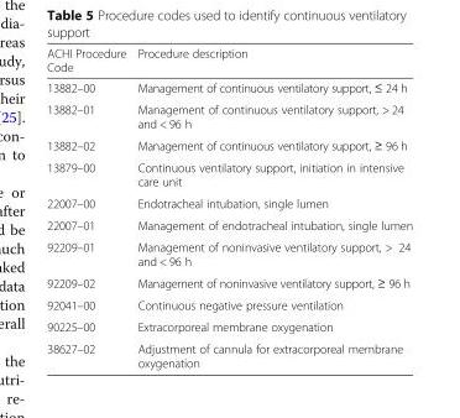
<table><thead><tr><td>ACHI Procedure Code</td><td>Procedure description</td></tr></thead><tbody><tr><td>13882–00</td><td>Management of continuous ventilatory support, ≤ 24 h</td></tr><tr><td>13882–01</td><td>Management of continuous ventilatory support, &gt; 24 and &lt; 96 h</td></tr><tr><td>13882–02</td><td>Management of continuous ventilatory support, ≥ 96 h</td></tr><tr><td>13879–00</td><td>Continuous ventilatory support, initiation in intensive care unit</td></tr><tr><td>22007–00</td><td>Endotracheal intubation, single lumen</td></tr><tr><td>22007–01</td><td>Management of endotracheal intubation, single lumen</td></tr><tr><td>92209–01</td><td>Management of noninvasive ventilatory support, &gt; 24 and &lt; 96 h</td></tr><tr><td>92209–02</td><td>Management of noninvasive ventilatory support, ≥ 96 h</td></tr><tr><td>92041–00</td><td>Continuous negative pressure ventilation</td></tr><tr><td>90225–00</td><td>Extracorporeal membrane oxygenation</td></tr><tr><td>38627–02</td><td>Adjustment of cannula for extracorporeal membrane oxygenation</td></tr></tbody></table>